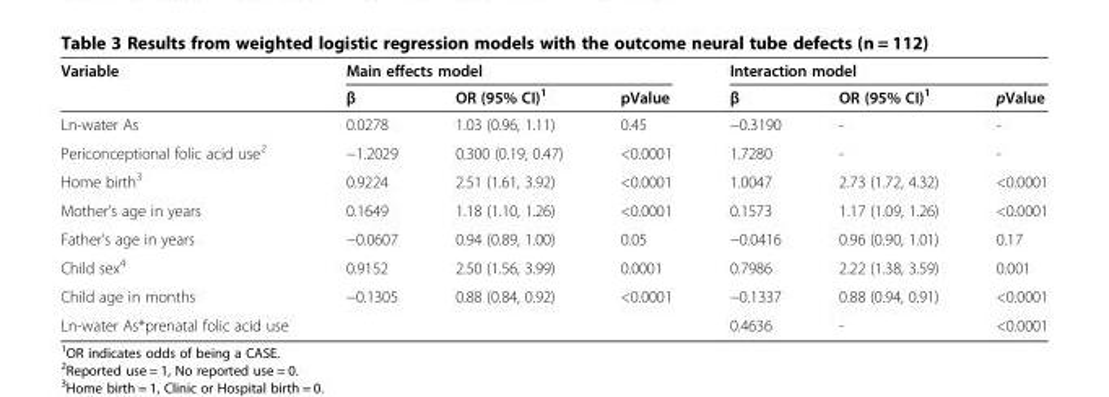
<table><thead><tr><td rowspan="2">Variable</td><td colspan="3">Main effects model</td><td colspan="3">Interaction model</td></tr><tr><td>β</td><td>OR (95% CI)<sup>1</sup></td><td>pValue</td><td>β</td><td>OR (95% CI)<sup>1</sup></td><td>pValue</td></tr></thead><tbody><tr><td>Ln-water As</td><td>0.0278</td><td>1.03 (0.96, 1.11)</td><td>0.45</td><td>−0.3190</td><td>-</td><td>-</td></tr><tr><td>Periconceptional folic acid use<sup>2</sup></td><td>−1.2029</td><td>0.300 (0.19, 0.47)</td><td>&lt;0.0001</td><td>1.7280</td><td>-</td><td>-</td></tr><tr><td>Home birth<sup>3</sup></td><td>0.9224</td><td>2.51 (1.61, 3.92)</td><td>&lt;0.0001</td><td>1.0047</td><td>2.73 (1.72, 4.32)</td><td>&lt;0.0001</td></tr><tr><td>Mother’s age in years</td><td>0.1649</td><td>1.18 (1.10, 1.26)</td><td>&lt;0.0001</td><td>0.1573</td><td>1.17 (1.09, 1.26)</td><td>&lt;0.0001</td></tr><tr><td>Father’s age in years</td><td>−0.0607</td><td>0.94 (0.89, 1.00)</td><td>0.05</td><td>−0.0416</td><td>0.96 (0.90, 1.01)</td><td>0.17</td></tr><tr><td>Child sex<sup>4</sup></td><td>0.9152</td><td>2.50 (1.56, 3.99)</td><td>0.0001</td><td>0.7986</td><td>2.22 (1.38, 3.59)</td><td>0.001</td></tr><tr><td>Child age in months</td><td>−0.1305</td><td>0.88 (0.84, 0.92)</td><td>&lt;0.0001</td><td>−0.1337</td><td>0.88 (0.94, 0.91)</td><td>&lt;0.0001</td></tr><tr><td>Ln-water As*prenatal folic acid use</td><td></td><td></td><td></td><td>0.4636</td><td>-</td><td>&lt;0.0001</td></tr></tbody></table>